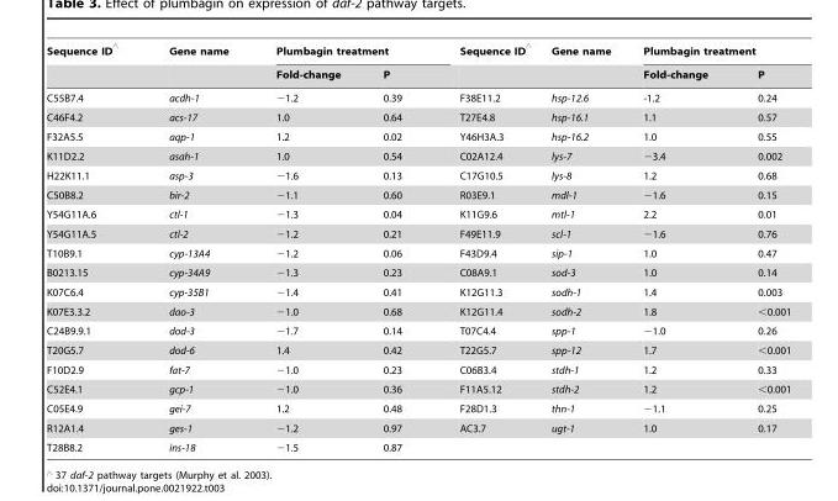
<table><thead><tr><td rowspan="2">Sequence ID</td><td rowspan="2">Gene name</td><td colspan="2">Plumbagin treatment</td><td rowspan="2">Sequence ID</td><td rowspan="2">Gene name</td><td colspan="2">Plumbagin treatment</td></tr><tr><td>Fold-change</td><td>P</td><td>Fold-change</td><td>P</td></tr></thead><tbody><tr><td>C55B7.4</td><td>acdh-1</td><td>−1.2</td><td>0.39</td><td>F38E11.2</td><td>hsp-12.6</td><td>-1.2</td><td>0.24</td></tr><tr><td>C46F4.2</td><td>acs-17</td><td>1.0</td><td>0.64</td><td>T27E4.8</td><td>hsp-16.1</td><td>1.1</td><td>0.57</td></tr><tr><td>F32A5.5</td><td>aqp-1</td><td>1.2</td><td>0.02</td><td>Y46H3A.3</td><td>hsp-16.2</td><td>1.0</td><td>0.55</td></tr><tr><td>K11D2.2</td><td>asah-1</td><td>1.0</td><td>0.54</td><td>C02A12.4</td><td>lys-7</td><td>−3.4</td><td>0.002</td></tr><tr><td>H22K11.1</td><td>asp-3</td><td>−1.6</td><td>0.13</td><td>C17G10.5</td><td>lys-8</td><td>1.2</td><td>0.68</td></tr><tr><td>C50B8.2</td><td>bir-2</td><td>−1.1</td><td>0.60</td><td>R03E9.1</td><td>mdl-1</td><td>−1.6</td><td>0.15</td></tr><tr><td>Y54G11A.6</td><td>ctl-1</td><td>−1.3</td><td>0.04</td><td>K11G9.6</td><td>mtl-1</td><td>2.2</td><td>0.01</td></tr><tr><td>Y54G11A.5</td><td>ctl-2</td><td>−1.2</td><td>0.21</td><td>F49E11.9</td><td>scl-1</td><td>−1.6</td><td>0.76</td></tr><tr><td>T10B9.1</td><td>cyp-13A4</td><td>−1.2</td><td>0.06</td><td>F43D9.4</td><td>sip-1</td><td>1.0</td><td>0.47</td></tr><tr><td>B0213.15</td><td>cyp-34A9</td><td>−1.3</td><td>0.23</td><td>C08A9.1</td><td>sod-3</td><td>1.0</td><td>0.14</td></tr><tr><td>K07C6.4</td><td>cyp-35B1</td><td>−1.4</td><td>0.41</td><td>K12G11.3</td><td>sodh-1</td><td>1.4</td><td>0.003</td></tr><tr><td>K07E3.3.2</td><td>dao-3</td><td>−1.0</td><td>0.68</td><td>K12G11.4</td><td>sodh-2</td><td>1.8</td><td>&lt;0.001</td></tr><tr><td>C24B9.9.1</td><td>dod-3</td><td>−1.7</td><td>0.14</td><td>T07C4.4</td><td>spp-1</td><td>−1.0</td><td>0.26</td></tr><tr><td>T20G5.7</td><td>dod-6</td><td>1.4</td><td>0.42</td><td>T22G5.7</td><td>spp-12</td><td>1.7</td><td>&lt;0.001</td></tr><tr><td>F10D2.9</td><td>fat-7</td><td>−1.0</td><td>0.23</td><td>C06B3.4</td><td>stdh-1</td><td>1.2</td><td>0.33</td></tr><tr><td>C52E4.1</td><td>gcp-1</td><td>−1.0</td><td>0.36</td><td>F11A5.12</td><td>stdh-2</td><td>1.2</td><td>&lt;0.001</td></tr><tr><td>C05E4.9</td><td>gei-7</td><td>1.2</td><td>0.48</td><td>F28D1.3</td><td>thn-1</td><td>−1.1</td><td>0.25</td></tr><tr><td>R12A1.4</td><td>ges-1</td><td>−1.2</td><td>0.97</td><td>AC3.7</td><td>ugt-1</td><td>1.0</td><td>0.17</td></tr><tr><td>T28B8.2</td><td>ins-18</td><td>−1.5</td><td>0.87</td><td></td><td></td><td></td><td></td></tr></tbody></table>